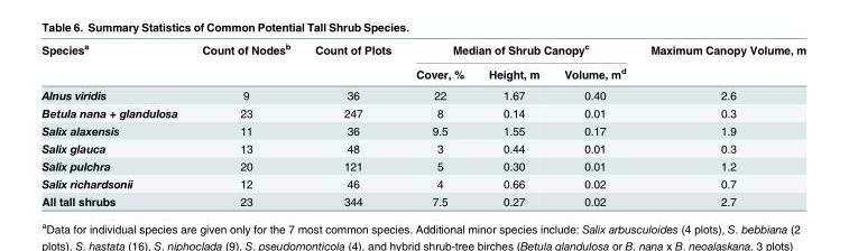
<table><thead><tr><td rowspan="2">Species<sup>a</sup></td><td rowspan="2">Count of Nodes<sup>b</sup></td><td rowspan="2">Count of Plots</td><td colspan="3">Median of Shrub Canopy<sup>c</sup></td><td rowspan="2">Maximum Canopy Volume, m</td></tr><tr><td>Cover, %</td><td>Height, m</td><td>Volume, m<sup>d</sup></td></tr></thead><tbody><tr><td>Alnus viridis</td><td>9</td><td>36</td><td>22</td><td>1.67</td><td>0.40</td><td>2.6</td></tr><tr><td>Betula nana + glandulosa</td><td>23</td><td>247</td><td>8</td><td>0.14</td><td>0.01</td><td>0.3</td></tr><tr><td>Salix alaxensis</td><td>11</td><td>36</td><td>9.5</td><td>1.55</td><td>0.17</td><td>1.9</td></tr><tr><td>Salix glauca</td><td>13</td><td>48</td><td>3</td><td>0.44</td><td>0.01</td><td>0.3</td></tr><tr><td>Salix pulchra</td><td>20</td><td>121</td><td>5</td><td>0.30</td><td>0.01</td><td>1.2</td></tr><tr><td>Salix richardsonii</td><td>12</td><td>46</td><td>4</td><td>0.66</td><td>0.02</td><td>0.7</td></tr><tr><td>All tall shrubs</td><td>23</td><td>344</td><td>7.5</td><td>0.27</td><td>0.02</td><td>2.7</td></tr></tbody></table>